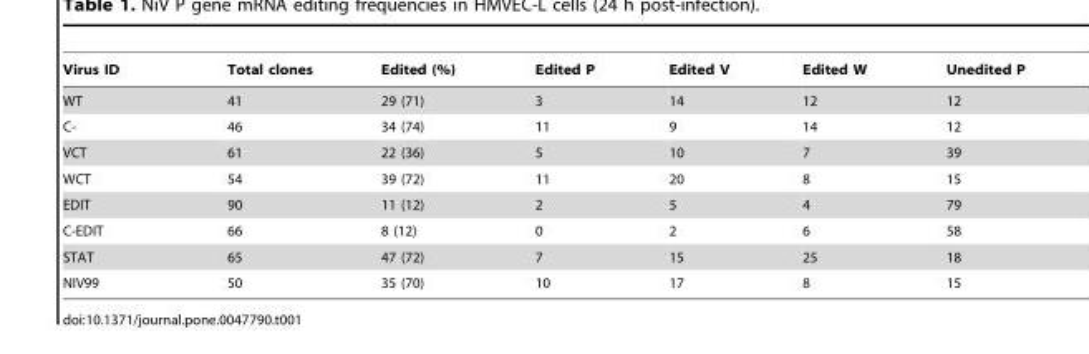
<table><thead><tr><td>Virus ID</td><td>Total clones</td><td>Edited (%)</td><td>Edited P</td><td>Edited V</td><td>Edited W</td><td>Unedited P</td></tr></thead><tbody><tr><td>WT</td><td>41</td><td>29 (71)</td><td>3</td><td>14</td><td>12</td><td>12</td></tr><tr><td>C-</td><td>46</td><td>34 (74)</td><td>11</td><td>9</td><td>14</td><td>12</td></tr><tr><td>VCT</td><td>61</td><td>22 (36)</td><td>5</td><td>10</td><td>7</td><td>39</td></tr><tr><td>WCT</td><td>54</td><td>39 (72)</td><td>11</td><td>20</td><td>8</td><td>15</td></tr><tr><td>EDIT</td><td>90</td><td>11 (12)</td><td>2</td><td>5</td><td>4</td><td>79</td></tr><tr><td>C-EDIT</td><td>66</td><td>8 (12)</td><td>0</td><td>2</td><td>6</td><td>58</td></tr><tr><td>STAT</td><td>65</td><td>47 (72)</td><td>7</td><td>15</td><td>25</td><td>18</td></tr><tr><td>NIV99</td><td>50</td><td>35 (70)</td><td>10</td><td>17</td><td>8</td><td>15</td></tr></tbody></table>